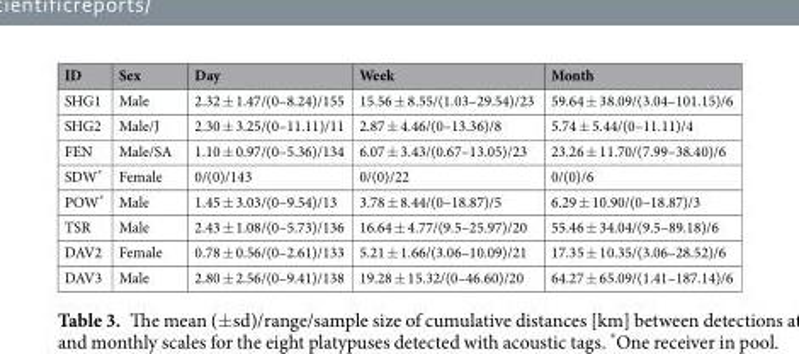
<table><thead><tr><td>ID</td><td>Sex</td><td>Day</td><td>Week</td><td>Month</td></tr></thead><tbody><tr><td>SHG1</td><td>Male</td><td>2.32 ± 1.47/(0–8.24)/155</td><td>15.56 ± 8.55/(1.03–29.54)/23</td><td>59.64 ± 38.09/(3.04–101.15)/6</td></tr><tr><td>SHG2</td><td>Male/J</td><td>2.30 ± 3.25/(0–11.11)/11</td><td>2.87 ± 4.46/(0–13.36)/8</td><td>5.74 ± 5.44/(0–11.11)/4</td></tr><tr><td>FEN</td><td>Male/SA</td><td>1.10 ± 0.97/(0–5.36)/134</td><td>6.07 ± 3.43/(0.67–13.05)/23</td><td>23.26 ± 11.70/(7.99–38.40)/6</td></tr><tr><td>SDW*</td><td>Female</td><td>0/(0)/143</td><td>0/(0)/22</td><td>0/(0)/6</td></tr><tr><td>POW*</td><td>Male</td><td>1.45 ± 3.03/(0–9.54)/13</td><td>3.78 ± 8.44/(0–18.87)/5</td><td>6.29 ± 10.90/(0–18.87)/3</td></tr><tr><td>TSR</td><td>Male</td><td>2.43 ± 1.08/(0–5.73)/136</td><td>16.64 ± 4.77/(9.5–25.97)/20</td><td>55.46 ± 34.04/(9.5–89.18)/6</td></tr><tr><td>DAV2</td><td>Female</td><td>0.78 ± 0.56/(0–2.61)/133</td><td>5.21 ± 1.66/(3.06–10.09)/21</td><td>17.35 ± 10.35/(3.06–28.52)/6</td></tr><tr><td>DAV3</td><td>Male</td><td>2.80 ± 2.56/(0–9.41)/138</td><td>19.28 ± 15.32/(0–46.60)/20</td><td>64.27 ± 65.09/(1.41–187.14)/6</td></tr></tbody></table>